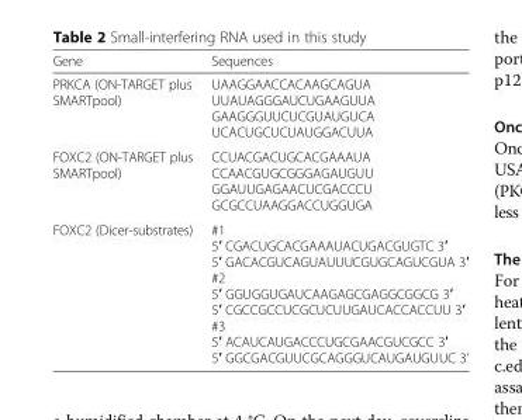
<table><thead><tr><td>Gene</td><td>Sequences</td></tr></thead><tbody><tr><td>PRKCA (ON-TARGET plus SMARTpool)</td><td>UAAGGAACCACAAGCAGUA UUAUAGGGAUCUGAAGUUA GAAGGGUUCUCGUAUGUCA UCACUGCUCUAUGGACUUA</td></tr><tr><td>FOXC2 (ON-TARGET plus SMARTpool)</td><td>CCUACGACUGCACGAAAUA CCAACGUGCGGGAGAUGUU GGAUUGAGAACUCGACCCU GCGCCUAAGGACCUGGUGA</td></tr><tr><td>FOXC2 (Dicer-substrates)</td><td>#1 5′ CGACUGCACGAAAUACUGACGUGTC 3′ 5′ GACACGUCAGUAUUUCGUGCAGUCGUA 3′ #2 5′ GGUGGUGAUCAAGAGCGAGGCGGCG 3′ 5′ CGCCGCCUCGCUCUUGAUCACCACCUU 3′ #3 5′ ACAUCAUGACCCUGCGAACGUCGCC 3′ 5′ GGCGACGUUCGCAGGGUCAUGAUGUUC 3’</td></tr></tbody></table>